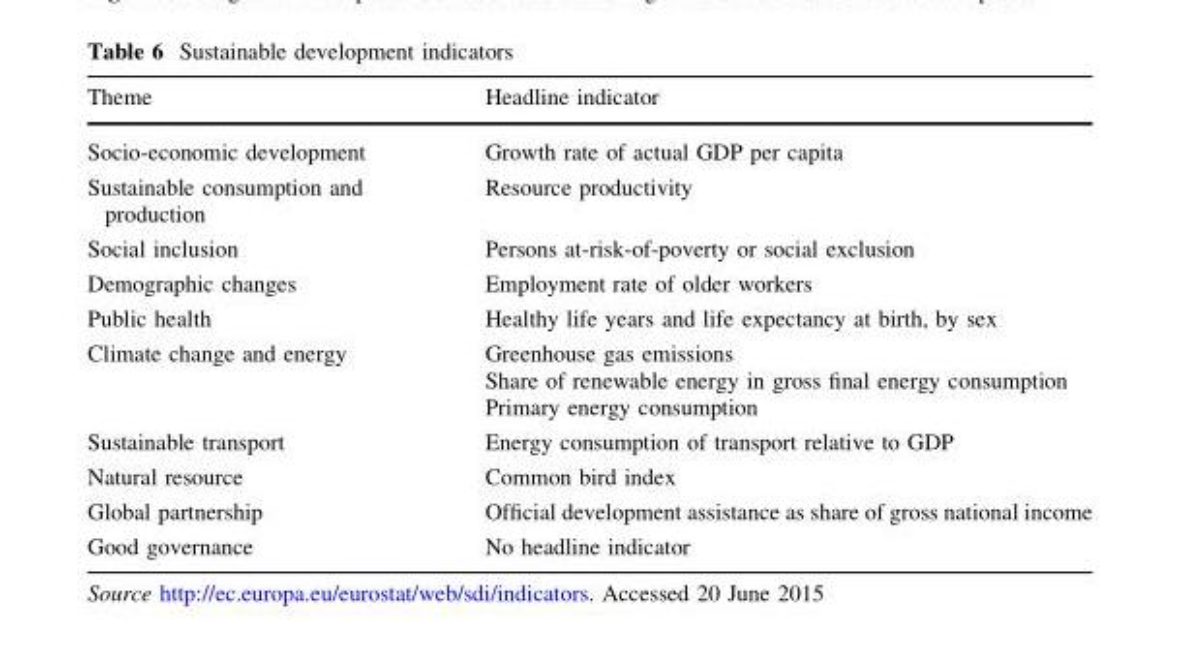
<table><thead><tr><td>Theme</td><td>Headline indicator</td></tr></thead><tbody><tr><td>Socio-economic development</td><td>Growth rate of actual GDP per capita</td></tr><tr><td>Sustainable consumption and production</td><td>Resource productivity</td></tr><tr><td>Social inclusion</td><td>Persons at-risk-of-poverty or social exclusion</td></tr><tr><td>Demographic changes</td><td>Employment rate of older workers</td></tr><tr><td>Public health</td><td>Healthy life years and life expectancy at birth, by sex</td></tr><tr><td>Climate change and energy</td><td>Greenhouse gas emissions Share of renewable energy in gross final energy consumption Primary energy consumption</td></tr><tr><td>Sustainable transport</td><td>Energy consumption of transport relative to GDP</td></tr><tr><td>Natural resource</td><td>Common bird index</td></tr><tr><td>Global partnership</td><td>Official development assistance as share of gross national income</td></tr><tr><td>Good governance</td><td>No headline indicator</td></tr></tbody></table>